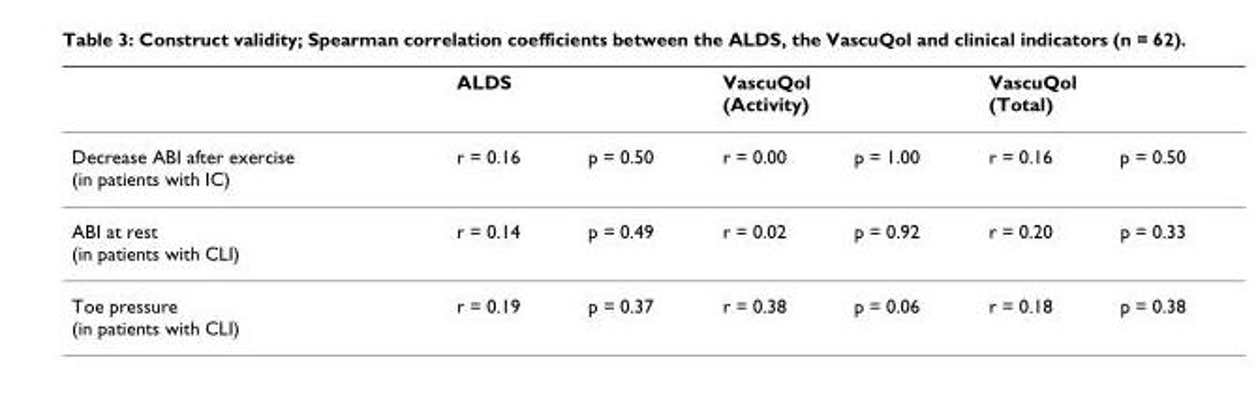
<table><thead><tr><td rowspan="2">Decrease ABI after exercise (in patients with IC)</td><td colspan="2">ALDS</td><td colspan="2">VascuQol (Activity)</td><td colspan="2">VascuQol (Total)</td></tr><tr><td>r = 0.16</td><td>p = 0.50</td><td>r = 0.00</td><td>p = 1.00</td><td>r = 0.16</td><td>p = 0.50</td></tr></thead><tbody><tr><td>ABI at rest (in patients with CLI)</td><td>r = 0.14</td><td>p = 0.49</td><td>r = 0.02</td><td>p = 0.92</td><td>r = 0.20</td><td>p = 0.33</td></tr><tr><td>Toe pressure (in patients with CLI)</td><td>r = 0.19</td><td>p = 0.37</td><td>r = 0.38</td><td>p = 0.06</td><td>r = 0.18</td><td>p = 0.38</td></tr></tbody></table>